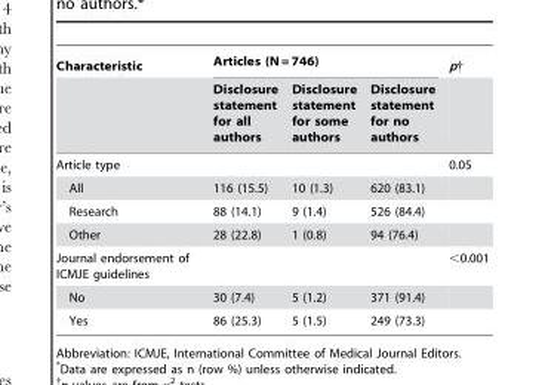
<table><thead><tr><td rowspan="2">Characteristic</td><td colspan="3">Articles (N = 746)</td><td rowspan="2">p†</td></tr><tr><td>Disclosure statement for all authors</td><td>Disclosure statement for some authors</td><td>Disclosure statement for no authors</td></tr></thead><tbody><tr><td>Article type</td><td></td><td></td><td></td><td>0.05</td></tr><tr><td>All</td><td>116 (15.5)</td><td>10 (1.3)</td><td>620 (83.1)</td><td></td></tr><tr><td>Research</td><td>88 (14.1)</td><td>9 (1.4)</td><td>526 (84.4)</td><td></td></tr><tr><td>Other</td><td>28 (22.8)</td><td>1 (0.8)</td><td>94 (76.4)</td><td></td></tr><tr><td>Journal endorsement of ICMJE guidelines</td><td></td><td></td><td></td><td>&lt;0.001</td></tr><tr><td>No</td><td>30 (7.4)</td><td>5 (1.2)</td><td>371 (91.4)</td><td></td></tr><tr><td>Yes</td><td>86 (25.3)</td><td>5 (1.5)</td><td>249 (73.3)</td><td></td></tr></tbody></table>